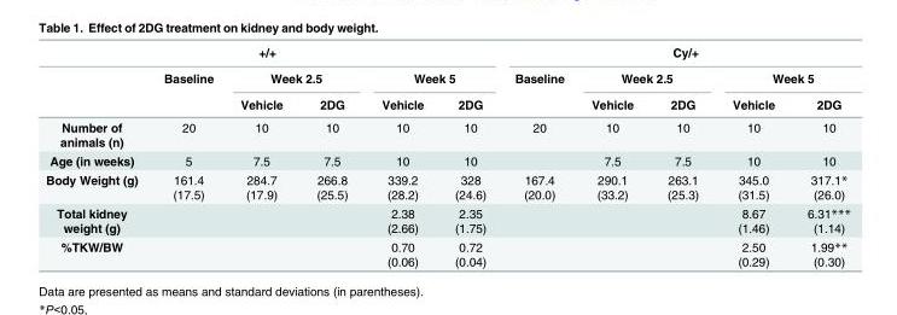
<table><thead><tr><td colspan="6">+/+</td><td colspan="5">Cy/+</td></tr><tr><td rowspan="2"></td><td rowspan="2">Baseline</td><td colspan="2">Week 2.5</td><td colspan="2">Week 5</td><td rowspan="2">Baseline</td><td colspan="2">Week 2.5</td><td colspan="2">Week 5</td></tr><tr><td>Vehicle</td><td>2DG</td><td>Vehicle</td><td>2DG</td><td>Vehicle</td><td>2DG</td><td>Vehicle</td><td>2DG</td></tr></thead><tbody><tr><td>Number of animals (n)</td><td>20</td><td>10</td><td>10</td><td>10</td><td>10</td><td>20</td><td>10</td><td>10</td><td>10</td><td>10</td></tr><tr><td>Age (in weeks)</td><td>5</td><td>7.5</td><td>7.5</td><td>10</td><td>10</td><td></td><td>7.5</td><td>7.5</td><td>10</td><td>10</td></tr><tr><td>Body Weight (g)</td><td>161.4 (17.5)</td><td>284.7 (17.9)</td><td>266.8 (25.5)</td><td>339.2 (28.2)</td><td>328 (24.6)</td><td>167.4 (20.0)</td><td>290.1 (33.2)</td><td>263.1 (25.3)</td><td>345.0 (31.5)</td><td>317.1* (26.0)</td></tr><tr><td>Total kidney weight (g)</td><td></td><td></td><td></td><td>2.38 (2.66)</td><td>2.35 (1.75)</td><td></td><td></td><td></td><td>8.67 (1.46)</td><td>6.31*** (1.14)</td></tr><tr><td>%TKW/BW</td><td></td><td></td><td></td><td>0.70 (0.06)</td><td>0.72 (0.04)</td><td></td><td></td><td></td><td>2.50 (0.29)</td><td>1.99** (0.30)</td></tr></tbody></table>